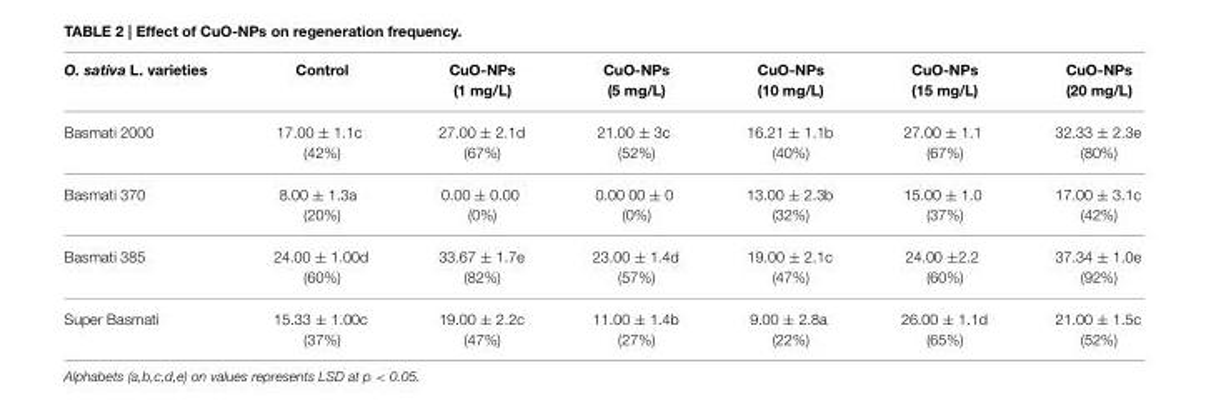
<table><thead><tr><td>O. sativa L. varieties</td><td>Control</td><td>CuO-NPs (1 mg/L)</td><td>CuO-NPs (5 mg/L)</td><td>CuO-NPs (10 mg/L)</td><td>CuO-NPs (15 mg/L)</td><td>CuO-NPs (20 mg/L)</td></tr></thead><tbody><tr><td>Basmati 2000</td><td>17.00 ± 1.1c (42%)</td><td>27.00 ± 2.1d (67%)</td><td>21.00 ± 3c (52%)</td><td>16.21 ± 1.1b (40%)</td><td>27.00 ± 1.1 (67%)</td><td>32.33 ± 2.3e (80%)</td></tr><tr><td>Basmati 370</td><td>8.00 ± 1.3a (20%)</td><td>0.00 ± 0.00 (0%)</td><td>0.00 00 ± 0 (0%)</td><td>13.00 ± 2.3b (32%)</td><td>15.00 ± 1.0 (37%)</td><td>17.00 ± 3.1c (42%)</td></tr><tr><td>Basmati 385</td><td>24.00 ± 1.00d (60%)</td><td>33.67 ± 1.7e (82%)</td><td>23.00 ± 1.4d (57%)</td><td>19.00 ± 2.1c (47%)</td><td>24.00 ±2.2 (60%)</td><td>37.34 ± 1.0e (92%)</td></tr><tr><td>Super Basmati</td><td>15.33 ± 1.00c (37%)</td><td>19.00 ± 2.2c (47%)</td><td>11.00 ± 1.4b (27%)</td><td>9.00 ± 2.8a (22%)</td><td>26.00 ± 1.1d (65%)</td><td>21.00 ± 1.5c (52%)</td></tr></tbody></table>